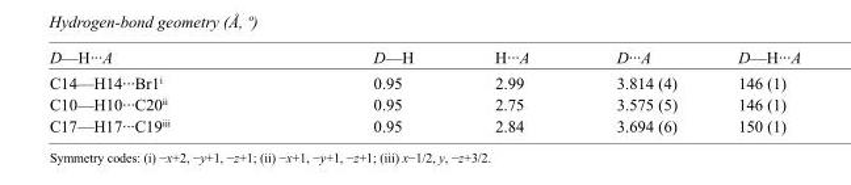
<table><tbody><tr><td>D—H···A</td><td>D—H</td><td>H···A</td><td>D···A</td><td>D—H···A</td></tr><tr><td>C14—H14···Br1<sup>i</sup></td><td>0.95</td><td>2.99</td><td>3.814 (4)</td><td>146 (1)</td></tr><tr><td>C10—H10···C20<sup>ii</sup></td><td>0.95</td><td>2.75</td><td>3.575 (5)</td><td>146 (1)</td></tr><tr><td>C17—H17···C19<sup>iii</sup></td><td>0.95</td><td>2.84</td><td>3.694 (6)</td><td>150 (1)</td></tr></tbody></table>